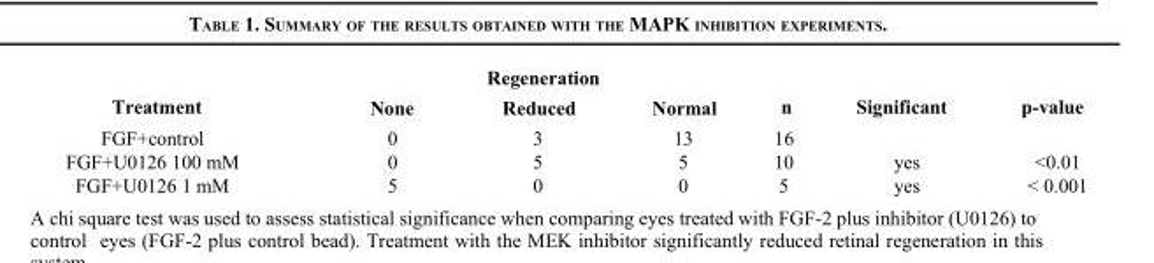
<table><thead><tr><td rowspan="2">Treatment</td><td colspan="3">Regeneration</td><td rowspan="2">n</td><td rowspan="2">Significant</td><td rowspan="2">p-value</td></tr><tr><td>None</td><td>Reduced</td><td>Normal</td></tr></thead><tbody><tr><td>FGF+control</td><td>0</td><td>3</td><td>13</td><td>16</td><td></td><td></td></tr><tr><td>FGF+U0126 100 mM</td><td>0</td><td>5</td><td>5</td><td>10</td><td>yes</td><td>&lt;0.01</td></tr><tr><td>FGF+U0126 1 mM</td><td>5</td><td>0</td><td>0</td><td>5</td><td>yes</td><td>&lt; 0.001</td></tr></tbody></table>